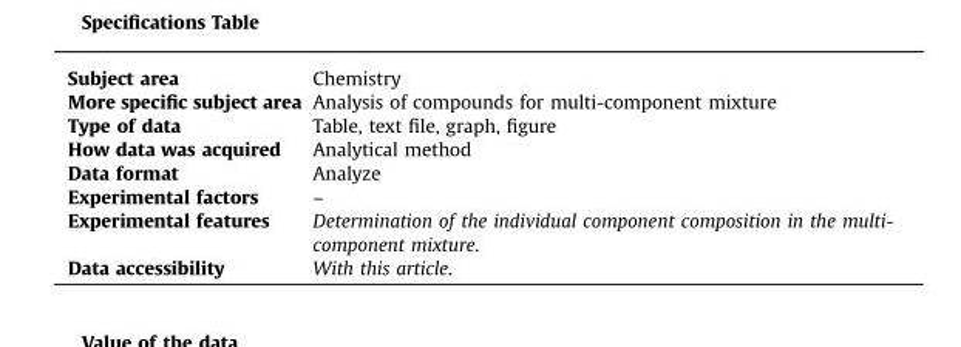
<table><tbody><tr><td>Subject area</td><td>Chemistry</td></tr><tr><td>More specific subject area</td><td>Analysis of compounds for multi-component mixture</td></tr><tr><td>Type of data</td><td>Table, text file, graph, figure</td></tr><tr><td>How data was acquired</td><td>Analytical method</td></tr><tr><td>Data format</td><td>Analyze</td></tr><tr><td>Experimental factors</td><td>–</td></tr><tr><td>Experimental features</td><td>Determination of the individual component composition in the multi- component mixture.</td></tr><tr><td>Data accessibility</td><td>With this article.</td></tr></tbody></table>